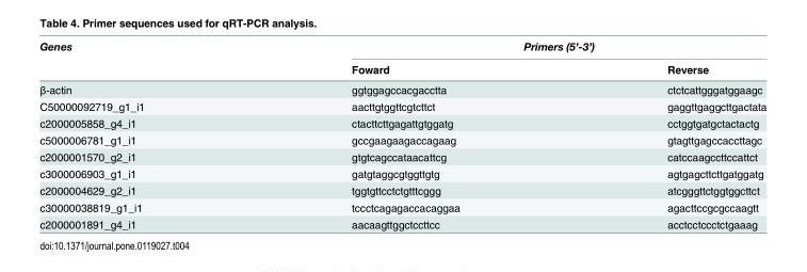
<table><thead><tr><td rowspan="2">Genes</td><td colspan="2">Primers (5’-3’)</td></tr><tr><td>Foward</td><td>Reverse</td></tr></thead><tbody><tr><td>β-actin</td><td>ggtggagccacgacctta</td><td>ctctcattgggatggaagc</td></tr><tr><td>C50000092719_g1_i1</td><td>aacttgtggttcgtcttct</td><td>gaggttgaggcttgactata</td></tr><tr><td>c2000005858_g4_i1</td><td>ctacttcttgagattgtggatg</td><td>cctggtgatgctactactg</td></tr><tr><td>c5000006781_g1_i1</td><td>gccgaagaagaccagaag</td><td>gtagttgagccaccttagc</td></tr><tr><td>c2000001570_g2_i1</td><td>gtgtcagccataacattcg</td><td>catccaagccttccattct</td></tr><tr><td>c3000006903_g1_i1</td><td>gatgtaggcgtggttgtg</td><td>agtgagcttcttgatggatg</td></tr><tr><td>c2000004629_g2_i1</td><td>tggtgttcctctgtttcggg</td><td>atcgggttctggtggcttct</td></tr><tr><td>c30000038819_g1_i1</td><td>tccctcagagaccacaggaa</td><td>agacttccgcgccaagtt</td></tr><tr><td>c2000001891_g4_i1</td><td>aacaagttggctccttcc</td><td>acctcctccctctgaaag</td></tr></tbody></table>